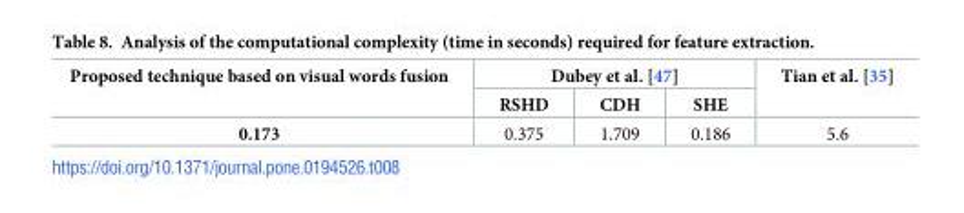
<table><thead><tr><td rowspan="2">Proposed technique based on visual words fusion</td><td colspan="3">Dubey et al. [47]</td><td rowspan="2">Tian et al. [35]</td></tr><tr><td>RSHD</td><td>CDH</td><td>SHE</td></tr></thead><tbody><tr><td>0.173</td><td>0.375</td><td>1.709</td><td>0.186</td><td>5.6</td></tr></tbody></table>